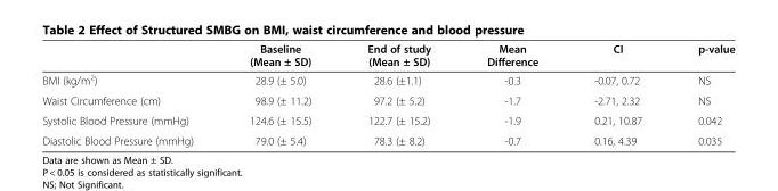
<table><thead><tr><td></td><td>Baseline (Mean ± SD)</td><td>End of study (Mean ± SD)</td><td>Mean Difference</td><td>CI</td><td>p-value</td></tr></thead><tbody><tr><td>BMI (kg/m<sup>2</sup>)</td><td>28.9 (± 5.0)</td><td>28.6 (±1.1)</td><td>-0.3</td><td>-0.07, 0.72</td><td>NS</td></tr><tr><td>Waist Circumference (cm)</td><td>98.9 (± 11.2)</td><td>97.2 (± 5.2)</td><td>-1.7</td><td>-2.71, 2.32</td><td>NS</td></tr><tr><td>Systolic Blood Pressure (mmHg)</td><td>124.6 (± 15.5)</td><td>122.7 (± 15.2)</td><td>-1.9</td><td>0.21, 10.87</td><td>0.042</td></tr><tr><td>Diastolic Blood Pressure (mmHg)</td><td>79.0 (± 5.4)</td><td>78.3 (± 8.2)</td><td>-0.7</td><td>0.16, 4.39</td><td>0.035</td></tr></tbody></table>